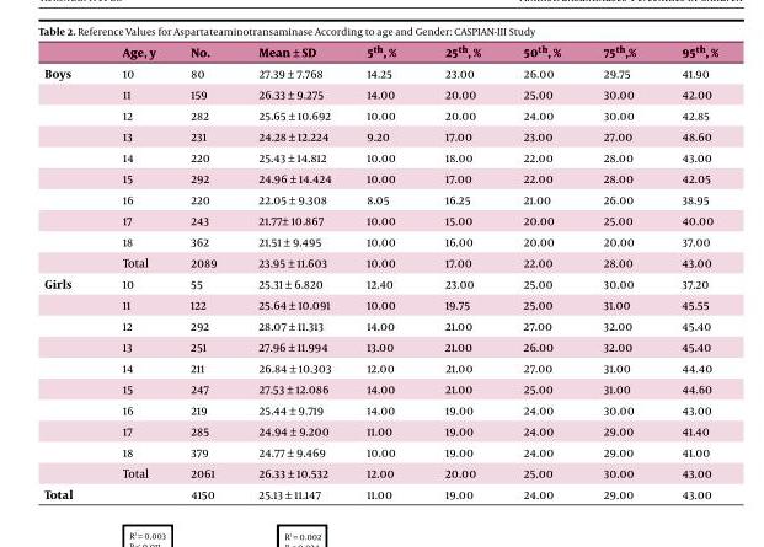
<table><thead><tr><td></td><td>Age, y</td><td>No.</td><td>Mean ± SD</td><td>5<sup>th</sup>, %</td><td>25<sup>th</sup>, %</td><td>50<sup>th</sup>, %</td><td>75<sup>th</sup>,%</td><td>95<sup>th</sup>, %</td></tr></thead><tbody><tr><td rowspan="10">Boys</td><td>10</td><td>80</td><td>27.39 ± 7.768</td><td>14.25</td><td>23.00</td><td>26.00</td><td>29.75</td><td>41.90</td></tr><tr><td>11</td><td>159</td><td>26.33 ± 9.275</td><td>14.00</td><td>20.00</td><td>25.00</td><td>30.00</td><td>42.00</td></tr><tr><td>12</td><td>282</td><td>25.65 ± 10.692</td><td>10.00</td><td>20.00</td><td>24.00</td><td>30.00</td><td>42.85</td></tr><tr><td>13</td><td>231</td><td>24.28 ± 12.224</td><td>9.20</td><td>17.00</td><td>23.00</td><td>27.00</td><td>48.60</td></tr><tr><td>14</td><td>220</td><td>25.43 ± 14.812</td><td>10.00</td><td>18.00</td><td>22.00</td><td>28.00</td><td>43.00</td></tr><tr><td>15</td><td>292</td><td>24.96 ± 14.424</td><td>10.00</td><td>17.00</td><td>22.00</td><td>28.00</td><td>42.05</td></tr><tr><td>16</td><td>220</td><td>22.05 ± 9.308</td><td>8.05</td><td>16.25</td><td>21.00</td><td>26.00</td><td>38.95</td></tr><tr><td>17</td><td>243</td><td>21.77± 10.867</td><td>10.00</td><td>15.00</td><td>20.00</td><td>25.00</td><td>40.00</td></tr><tr><td>18</td><td>362</td><td>21.51 ± 9.495</td><td>10.00</td><td>16.00</td><td>20.00</td><td>20.00</td><td>37.00</td></tr><tr><td>Total</td><td>2089</td><td>23.95 ± 11.603</td><td>10.00</td><td>17.00</td><td>22.00</td><td>28.00</td><td>43.00</td></tr><tr><td rowspan="10">Girls</td><td>10</td><td>55</td><td>25.31 ± 6.820</td><td>12.40</td><td>23.00</td><td>25.00</td><td>30.00</td><td>37.20</td></tr><tr><td>11</td><td>122</td><td>25.64 ± 10.091</td><td>10.00</td><td>19.75</td><td>25.00</td><td>31.00</td><td>45.55</td></tr><tr><td>12</td><td>292</td><td>28.07 ± 11.313</td><td>14.00</td><td>21.00</td><td>27.00</td><td>32.00</td><td>45.40</td></tr><tr><td>13</td><td>251</td><td>27.96 ± 11.994</td><td>13.00</td><td>21.00</td><td>26.00</td><td>32.00</td><td>45.40</td></tr><tr><td>14</td><td>211</td><td>26.84 ± 10.303</td><td>12.00</td><td>21.00</td><td>27.00</td><td>31.00</td><td>44.40</td></tr><tr><td>15</td><td>247</td><td>27.53 ± 12.086</td><td>14.00</td><td>21.00</td><td>25.00</td><td>31.00</td><td>44.60</td></tr><tr><td>16</td><td>219</td><td>25.44 ± 9.719</td><td>14.00</td><td>19.00</td><td>24.00</td><td>30.00</td><td>43.00</td></tr><tr><td>17</td><td>285</td><td>24.94 ± 9.200</td><td>11.00</td><td>19.00</td><td>24.00</td><td>29.00</td><td>41.40</td></tr><tr><td>18</td><td>379</td><td>24.77 ± 9.469</td><td>10.00</td><td>19.00</td><td>24.00</td><td>29.00</td><td>41.00</td></tr><tr><td>Total</td><td>2061</td><td>26.33 ± 10.532</td><td>12.00</td><td>20.00</td><td>25.00</td><td>30.00</td><td>43.00</td></tr><tr><td>Total</td><td></td><td>4150</td><td>25.13 ± 11.147</td><td>11.00</td><td>19.00</td><td>24.00</td><td>29.00</td><td>43.00</td></tr></tbody></table>